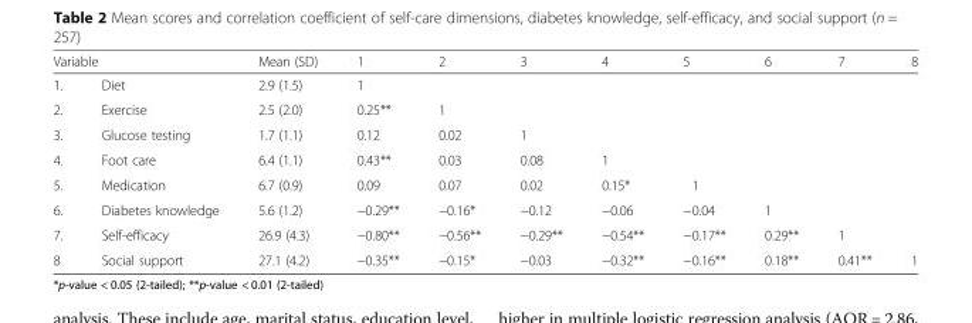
<table><thead><tr><td colspan="2">Variable</td><td rowspan="2">Mean (SD) 2.9 (1.5)</td><td rowspan="2">1 1</td><td rowspan="2">2</td><td rowspan="2">3</td><td rowspan="2">4</td><td rowspan="2">5</td><td rowspan="2">6</td><td rowspan="2">7</td><td rowspan="2">8</td></tr><tr><td>1.</td><td>Diet</td></tr></thead><tbody><tr><td>2.</td><td>Exercise</td><td>2.5 (2.0)</td><td>0.25**</td><td>1</td><td></td><td></td><td></td><td></td><td></td><td></td></tr><tr><td>3.</td><td>Glucose testing</td><td>1.7 (1.1)</td><td>0.12</td><td>0.02</td><td>1</td><td></td><td></td><td></td><td></td><td></td></tr><tr><td>4.</td><td>Foot care</td><td>6.4 (1.1)</td><td>0.43**</td><td>0.03</td><td>0.08</td><td>1</td><td></td><td></td><td></td><td></td></tr><tr><td>5.</td><td>Medication</td><td>6.7 (0.9)</td><td>0.09</td><td>0.07</td><td>0.02</td><td>0.15*</td><td>1</td><td></td><td></td><td></td></tr><tr><td>6.</td><td>Diabetes knowledge</td><td>5.6 (1.2)</td><td>−0.29**</td><td>−0.16*</td><td>−0.12</td><td>−0.06</td><td>−0.04</td><td>1</td><td></td><td></td></tr><tr><td>7.</td><td>Self-efficacy</td><td>26.9 (4.3)</td><td>−0.80**</td><td>−0.56**</td><td>−0.29**</td><td>−0.54**</td><td>−0.17**</td><td>0.29**</td><td>1</td><td></td></tr><tr><td>8</td><td>Social support</td><td>27.1 (4.2)</td><td>−0.35**</td><td>−0.15*</td><td>−0.03</td><td>−0.32**</td><td>−0.16**</td><td>0.18**</td><td>0.41**</td><td>1</td></tr></tbody></table>